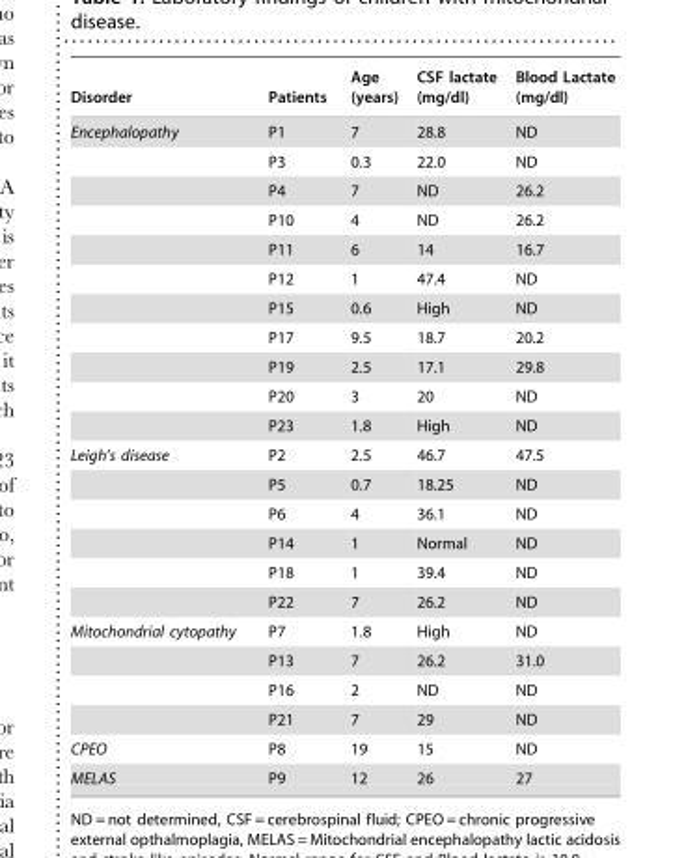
<table><thead><tr><td>Disorder</td><td>Patients</td><td>Age (years)</td><td>CSF lactate (mg/dl)</td><td>Blood Lactate (mg/dl)</td></tr></thead><tbody><tr><td rowspan="11">Encephalopathy</td><td>P1</td><td>7</td><td>28.8</td><td>ND</td></tr><tr><td>P3</td><td>0.3</td><td>22.0</td><td>ND</td></tr><tr><td>P4</td><td>7</td><td>ND</td><td>26.2</td></tr><tr><td>P10</td><td>4</td><td>ND</td><td>26.2</td></tr><tr><td>P11</td><td>6</td><td>14</td><td>16.7</td></tr><tr><td>P12</td><td>1</td><td>47.4</td><td>ND</td></tr><tr><td>P15</td><td>0.6</td><td>High</td><td>ND</td></tr><tr><td>P17</td><td>9.5</td><td>18.7</td><td>20.2</td></tr><tr><td>P19</td><td>2.5</td><td>17.1</td><td>29.8</td></tr><tr><td>P20</td><td>3</td><td>20</td><td>ND</td></tr><tr><td>P23</td><td>1.8</td><td>High</td><td>ND</td></tr><tr><td rowspan="6">Leigh’s disease</td><td>P2</td><td>2.5</td><td>46.7</td><td>47.5</td></tr><tr><td>P5</td><td>0.7</td><td>18.25</td><td>ND</td></tr><tr><td>P6</td><td>4</td><td>36.1</td><td>ND</td></tr><tr><td>P14</td><td>1</td><td>Normal</td><td>ND</td></tr><tr><td>P18</td><td>1</td><td>39.4</td><td>ND</td></tr><tr><td>P22</td><td>7</td><td>26.2</td><td>ND</td></tr><tr><td rowspan="4">Mitochondrial cytopathy</td><td>P7</td><td>1.8</td><td>High</td><td>ND</td></tr><tr><td>P13</td><td>7</td><td>26.2</td><td>31.0</td></tr><tr><td>P16</td><td>2</td><td>ND</td><td>ND</td></tr><tr><td>P21</td><td>7</td><td>29</td><td>ND</td></tr><tr><td>CPEO</td><td>P8</td><td>19</td><td>15</td><td>ND</td></tr><tr><td>MELAS</td><td>P9</td><td>12</td><td>26</td><td>27</td></tr></tbody></table>